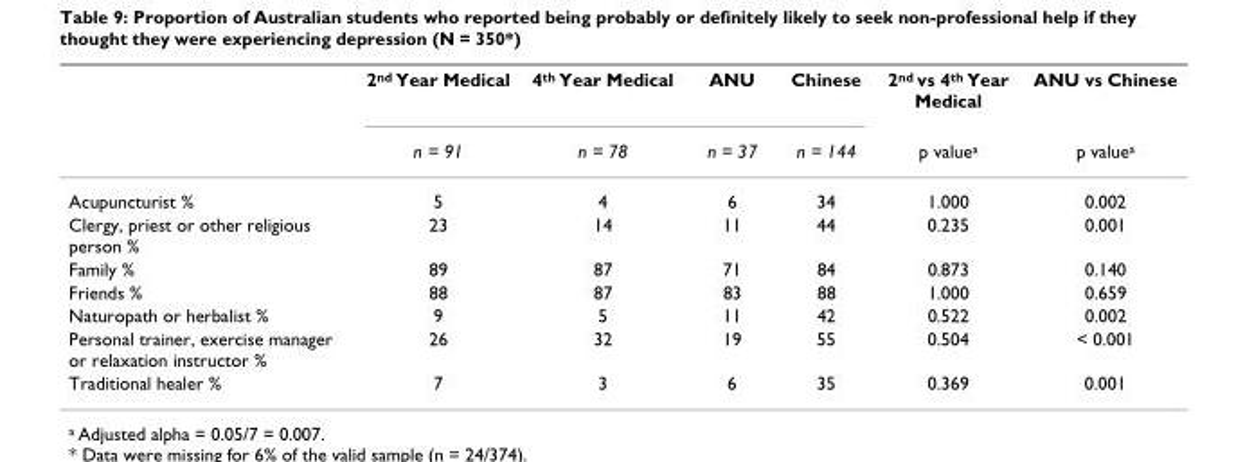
<table><thead><tr><td rowspan="2"></td><td rowspan="2">2<sup>nd</sup> Year Medical n = 91</td><td rowspan="2">4<sup>th</sup> Year Medical n = 78</td><td rowspan="2">ANU n = 37</td><td rowspan="2">Chinese n = 144</td><td rowspan="2">2<sup>nd</sup> vs 4<sup>th</sup> Year Medical p value<sup>a</sup></td><td rowspan="2">ANU vs Chinese p value<sup>a</sup></td></tr><tr></tr></thead><tbody><tr><td>Acupuncturist %</td><td>5</td><td>4</td><td>6</td><td>34</td><td>1.000</td><td>0.002</td></tr><tr><td>Clergy, priest or other religious person %</td><td>23</td><td>14</td><td>11</td><td>44</td><td>0.235</td><td>0.001</td></tr><tr><td>Family %</td><td>89</td><td>87</td><td>71</td><td>84</td><td>0.873</td><td>0.140</td></tr><tr><td>Friends %</td><td>88</td><td>87</td><td>83</td><td>88</td><td>1.000</td><td>0.659</td></tr><tr><td>Naturopath or herbalist %</td><td>9</td><td>5</td><td>11</td><td>42</td><td>0.522</td><td>0.002</td></tr><tr><td>Personal trainer, exercise manager or relaxation instructor %</td><td>26</td><td>32</td><td>19</td><td>55</td><td>0.504</td><td>&lt; 0.001</td></tr><tr><td>Traditional healer %</td><td>7</td><td>3</td><td>6</td><td>35</td><td>0.369</td><td>0.001</td></tr></tbody></table>